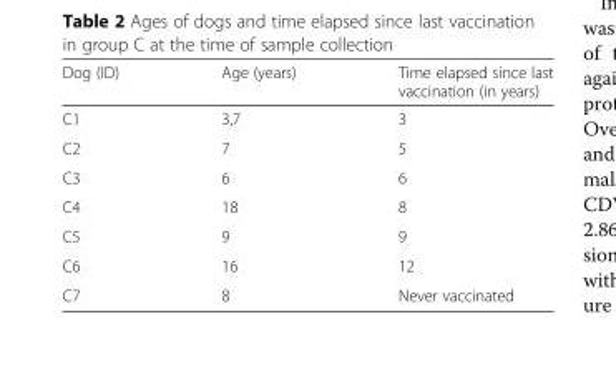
<table><thead><tr><td>Dog (ID)</td><td>Age (years)</td><td>Time elapsed since last vaccination (in years)</td></tr></thead><tbody><tr><td>C1</td><td>3,7</td><td>3</td></tr><tr><td>C2</td><td>7</td><td>5</td></tr><tr><td>C3</td><td>6</td><td>6</td></tr><tr><td>C4</td><td>18</td><td>8</td></tr><tr><td>C5</td><td>9</td><td>9</td></tr><tr><td>C6</td><td>16</td><td>12</td></tr><tr><td>C7</td><td>8</td><td>Never vaccinated</td></tr></tbody></table>